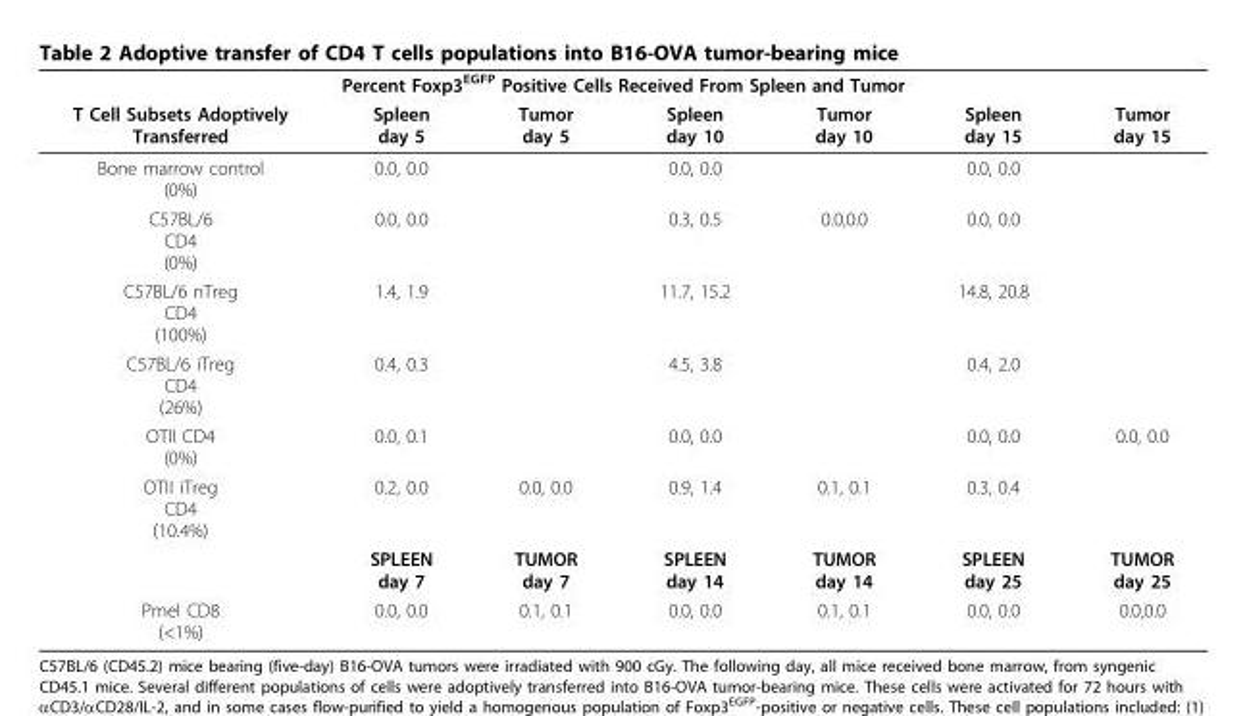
<table><thead><tr><td colspan="7">Percent Foxp3<sup>EGFP</sup> Positive Cells Received From Spleen and Tumor</td></tr><tr><td>T Cell Subsets Adoptively Transferred</td><td>Spleen day 5</td><td>Tumor day 5</td><td>Spleen day 10</td><td>Tumor day 10</td><td>Spleen day 15</td><td>Tumor day 15</td></tr></thead><tbody><tr><td>Bone marrow control (0%)</td><td>0.0, 0.0</td><td></td><td>0.0, 0.0</td><td></td><td>0.0, 0.0</td><td></td></tr><tr><td>C57BL/6 CD4 (0%)</td><td>0.0, 0.0</td><td></td><td>0.3, 0.5</td><td>0.0,0.0</td><td>0.0, 0.0</td><td></td></tr><tr><td>C57BL/6 nTreg CD4 (100%)</td><td>1.4, 1.9</td><td></td><td>11.7, 15.2</td><td></td><td>14.8, 20.8</td><td></td></tr><tr><td>C57BL/6 iTreg CD4 (26%)</td><td>0.4, 0.3</td><td></td><td>4.5, 3.8</td><td></td><td>0.4, 2.0</td><td></td></tr><tr><td>OTII CD4 (0%)</td><td>0.0, 0.1</td><td></td><td>0.0, 0.0</td><td></td><td>0.0, 0.0</td><td>0.0, 0.0</td></tr><tr><td rowspan="2">OTII iTreg CD4 (10.4%)</td><td>0.2, 0.0</td><td>0.0, 0.0</td><td>0.9, 1.4</td><td>0.1, 0.1</td><td>0.3, 0.4</td><td></td></tr><tr><td>SPLEEN day 7</td><td>TUMOR day 7</td><td>SPLEEN day 14</td><td>TUMOR day 14</td><td>SPLEEN day 25</td><td>TUMOR day 25</td></tr><tr><td>Pmel CD8 (&lt;1%)</td><td>0.0, 0.0</td><td>0.1, 0.1</td><td>0.0, 0.0</td><td>0.1, 0.1</td><td>0.0, 0.0</td><td>0.0,0.0</td></tr></tbody></table>